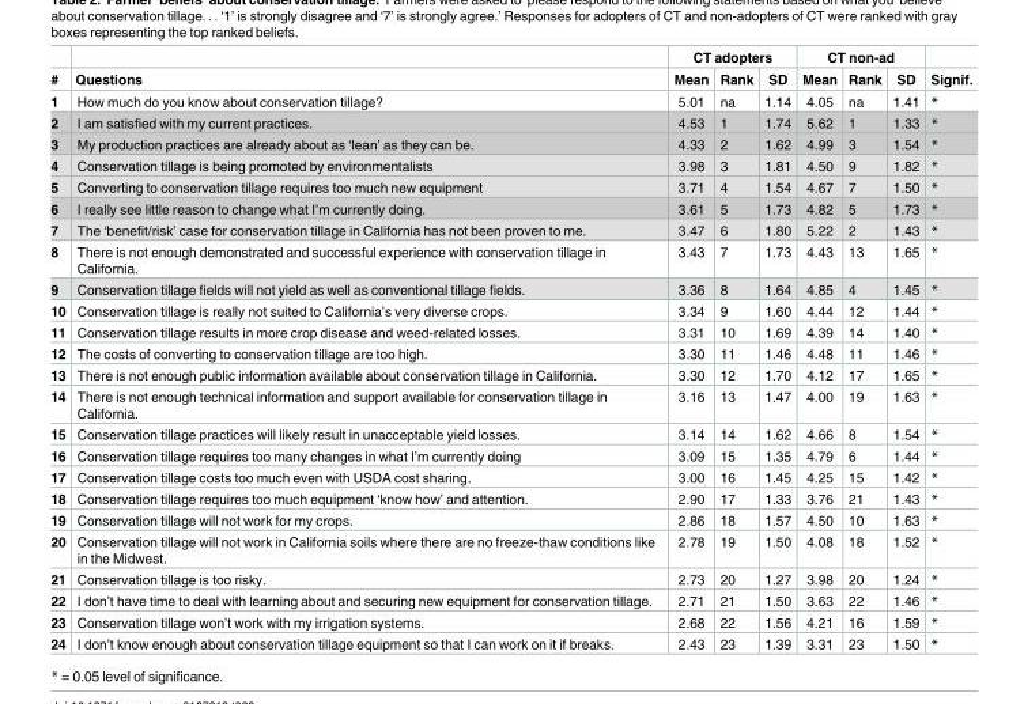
<table><thead><tr><td rowspan="2">#</td><td rowspan="2">Questions</td><td colspan="3">CT adopters</td><td colspan="3">CT non-ad</td><td rowspan="2">Signif.</td></tr><tr><td>Mean</td><td>Rank</td><td>SD</td><td>Mean</td><td>Rank</td><td>SD</td></tr></thead><tbody><tr><td>1</td><td>How much do you know about conservation tillage?</td><td>5.01</td><td>na</td><td>1.14</td><td>4.05</td><td>na</td><td>1.41</td><td>*</td></tr><tr><td>2</td><td>I am satisfied with my current practices.</td><td>4.53</td><td>1</td><td>1.74</td><td>5.62</td><td>1</td><td>1.33</td><td>*</td></tr><tr><td>3</td><td>My production practices are already about as ‘lean’ as they can be.</td><td>4.33</td><td>2</td><td>1.62</td><td>4.99</td><td>3</td><td>1.54</td><td>*</td></tr><tr><td>4</td><td>Conservation tillage is being promoted by environmentalists</td><td>3.98</td><td>3</td><td>1.81</td><td>4.50</td><td>9</td><td>1.82</td><td>*</td></tr><tr><td>5</td><td>Converting to conservation tillage requires too much new equipment</td><td>3.71</td><td>4</td><td>1.54</td><td>4.67</td><td>7</td><td>1.50</td><td>*</td></tr><tr><td>6</td><td>I really see little reason to change what I’m currently doing.</td><td>3.61</td><td>5</td><td>1.73</td><td>4.82</td><td>5</td><td>1.73</td><td>*</td></tr><tr><td>7</td><td>The ‘benefit/risk’ case for conservation tillage in California has not been proven to me.</td><td>3.47</td><td>6</td><td>1.80</td><td>5.22</td><td>2</td><td>1.43</td><td>*</td></tr><tr><td>8</td><td>There is not enough demonstrated and successful experience with conservation tillage in California.</td><td>3.43</td><td>7</td><td>1.73</td><td>4.43</td><td>13</td><td>1.65</td><td>*</td></tr><tr><td>9</td><td>Conservation tillage fields will not yield as well as conventional tillage fields.</td><td>3.36</td><td>8</td><td>1.64</td><td>4.85</td><td>4</td><td>1.45</td><td>*</td></tr><tr><td>10</td><td>Conservation tillage is really not suited to California’s very diverse crops.</td><td>3.34</td><td>9</td><td>1.60</td><td>4.44</td><td>12</td><td>1.44</td><td>*</td></tr><tr><td>11</td><td>Conservation tillage results in more crop disease and weed-related losses.</td><td>3.31</td><td>10</td><td>1.69</td><td>4.39</td><td>14</td><td>1.40</td><td>*</td></tr><tr><td>12</td><td>The costs of converting to conservation tillage are too high.</td><td>3.30</td><td>11</td><td>1.46</td><td>4.48</td><td>11</td><td>1.46</td><td>*</td></tr><tr><td>13</td><td>There is not enough public information available about conservation tillage in California.</td><td>3.30</td><td>12</td><td>1.70</td><td>4.12</td><td>17</td><td>1.65</td><td>*</td></tr><tr><td>14</td><td>There is not enough technical information and support available for conservation tillage in California.</td><td>3.16</td><td>13</td><td>1.47</td><td>4.00</td><td>19</td><td>1.63</td><td>*</td></tr><tr><td>15</td><td>Conservation tillage practices will likely result in unacceptable yield losses.</td><td>3.14</td><td>14</td><td>1.62</td><td>4.66</td><td>8</td><td>1.54</td><td>*</td></tr><tr><td>16</td><td>Conservation tillage requires too many changes in what I’m currently doing</td><td>3.09</td><td>15</td><td>1.35</td><td>4.79</td><td>6</td><td>1.44</td><td>*</td></tr><tr><td>17</td><td>Conservation tillage costs too much even with USDA cost sharing.</td><td>3.00</td><td>16</td><td>1.45</td><td>4.25</td><td>15</td><td>1.42</td><td>*</td></tr><tr><td>18</td><td>Conservation tillage requires too much equipment ‘know how’ and attention.</td><td>2.90</td><td>17</td><td>1.33</td><td>3.76</td><td>21</td><td>1.43</td><td>*</td></tr><tr><td>19</td><td>Conservation tillage will not work for my crops.</td><td>2.86</td><td>18</td><td>1.57</td><td>4.50</td><td>10</td><td>1.63</td><td>*</td></tr><tr><td>20</td><td>Conservation tillage will not work in California soils where there are no freeze-thaw conditions like in the Midwest.</td><td>2.78</td><td>19</td><td>1.50</td><td>4.08</td><td>18</td><td>1.52</td><td>*</td></tr><tr><td>21</td><td>Conservation tillage is too risky.</td><td>2.73</td><td>20</td><td>1.27</td><td>3.98</td><td>20</td><td>1.24</td><td>*</td></tr><tr><td>22</td><td>I don’t have time to deal with learning about and securing new equipment for conservation tillage.</td><td>2.71</td><td>21</td><td>1.50</td><td>3.63</td><td>22</td><td>1.46</td><td>*</td></tr><tr><td>23</td><td>Conservation tillage won’t work with my irrigation systems.</td><td>2.68</td><td>22</td><td>1.56</td><td>4.21</td><td>16</td><td>1.59</td><td>*</td></tr><tr><td>24</td><td>I don’t know enough about conservation tillage equipment so that I can work on it if breaks.</td><td>2.43</td><td>23</td><td>1.39</td><td>3.31</td><td>23</td><td>1.50</td><td>*</td></tr></tbody></table>